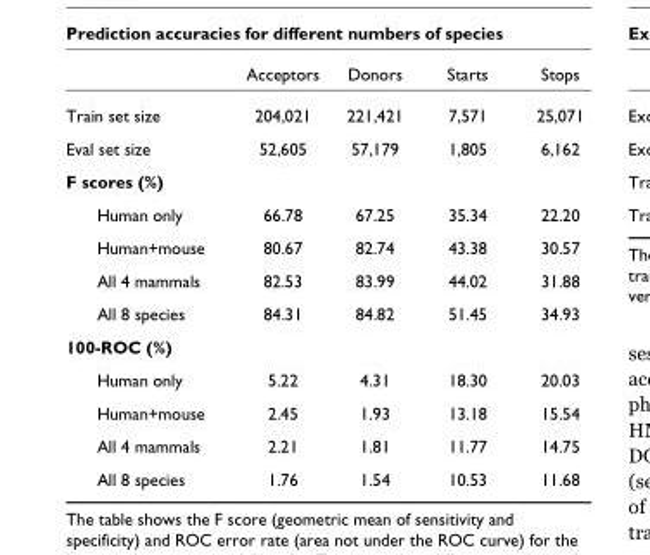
<table><thead><tr><td></td><td>Acceptors</td><td>Donors</td><td>Starts</td><td>Stops</td></tr></thead><tbody><tr><td>Train set size</td><td>204,021</td><td>221,421</td><td>7,571</td><td>25,071</td></tr><tr><td>Eval set size</td><td>52,605</td><td>57,179</td><td>1,805</td><td>6,162</td></tr><tr><td colspan="5">F scores (%)</td></tr><tr><td>Human only</td><td>66.78</td><td>67.25</td><td>35.34</td><td>22.20</td></tr><tr><td>Human+mouse</td><td>80.67</td><td>82.74</td><td>43.38</td><td>30.57</td></tr><tr><td>All 4 mammals</td><td>82.53</td><td>83.99</td><td>44.02</td><td>31.88</td></tr><tr><td>All 8 species</td><td>84.31</td><td>84.82</td><td>51.45</td><td>34.93</td></tr><tr><td colspan="5">100-ROC (%)</td></tr><tr><td>Human only</td><td>5.22</td><td>4.31</td><td>18.30</td><td>20.03</td></tr><tr><td>Human+mouse</td><td>2.45</td><td>1.93</td><td>13.18</td><td>15.54</td></tr><tr><td>All 4 mammals</td><td>2.21</td><td>1.81</td><td>11.77</td><td>14.75</td></tr><tr><td>All 8 species</td><td>1.76</td><td>1.54</td><td>10.53</td><td>11.68</td></tr></tbody></table>